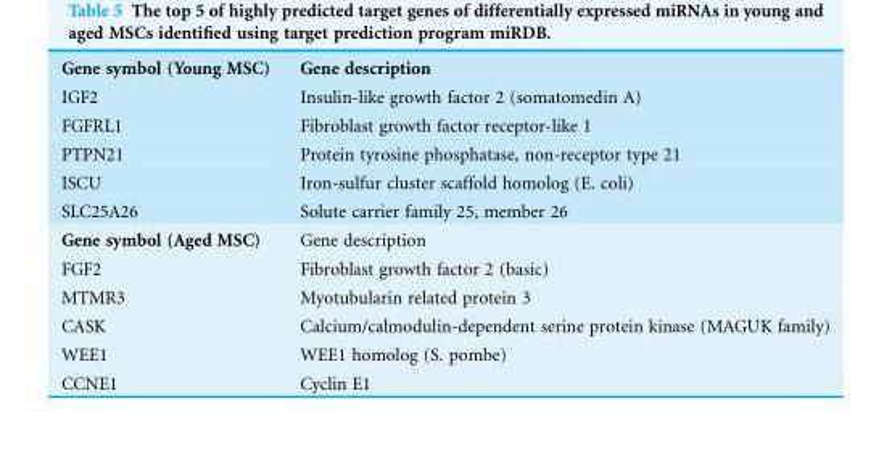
<table><tbody><tr><td>Gene symbol (Young MSC)</td><td>Gene description</td></tr><tr><td>IGF2</td><td>Insulin-like growth factor 2 (somatomedin A)</td></tr><tr><td>FGFRL1</td><td>Fibroblast growth factor receptor-like 1</td></tr><tr><td>PTPN21</td><td>Protein tyrosine phosphatase, non-receptor type 21</td></tr><tr><td>ISCU</td><td>Iron-sulfur cluster scaffold homolog (E. coli)</td></tr><tr><td>SLC25A26</td><td>Solute carrier family 25, member 26</td></tr><tr><td>Gene symbol (Aged MSC)</td><td>Gene description</td></tr><tr><td>FGF2</td><td>Fibroblast growth factor 2 (basic)</td></tr><tr><td>MTMR3</td><td>Myotubularin related protein 3</td></tr><tr><td>CASK</td><td>Calcium/calmodulin-dependent serine protein kinase (MAGUK family)</td></tr><tr><td>WEE1</td><td>WEE1 homolog (S. pombe)</td></tr><tr><td>CCNE1</td><td>Cyclin E1</td></tr></tbody></table>